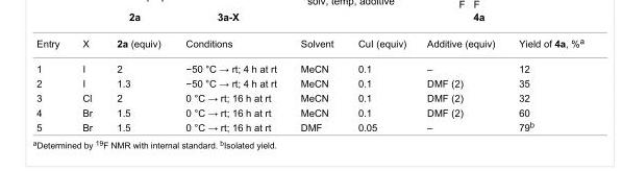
<table><tbody><tr><td>Entry</td><td>X</td><td>2a (equiv)</td><td>Conditions</td><td>Solvent</td><td>CuI (equiv)</td><td>Additive (equiv)</td><td>Yield of 4a, %<sup>a</sup></td></tr><tr><td>1</td><td>I</td><td>2</td><td>−50 °C → rt; 4 h at rt</td><td>MeCN</td><td>0.1</td><td>–</td><td>12</td></tr><tr><td>2</td><td>I</td><td>1.3</td><td>−50 °C → rt; 4 h at rt</td><td>MeCN</td><td>0.1</td><td>DMF (2)</td><td>35</td></tr><tr><td>3</td><td>Cl</td><td>2</td><td>0 °C → rt; 16 h at rt</td><td>MeCN</td><td>0.1</td><td>DMF (2)</td><td>32</td></tr><tr><td>4</td><td>Br</td><td>1.5</td><td>0 °C → rt; 16 h at rt</td><td>MeCN</td><td>0.1</td><td>DMF (2)</td><td>60</td></tr><tr><td>5</td><td>Br</td><td>1.5</td><td>0 °C → rt; 16 h at rt</td><td>DMF</td><td>0.05</td><td>–</td><td>79<sup>b</sup></td></tr></tbody></table>